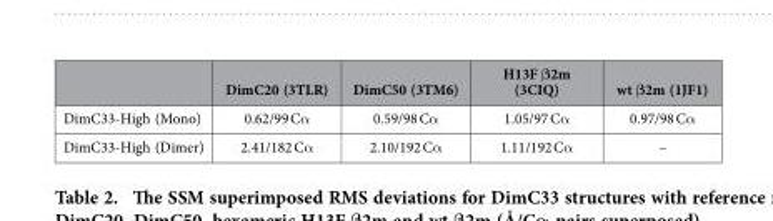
<table><thead><tr><td></td><td>DimC20 (3TLR)</td><td>DimC50 (3TM6)</td><td>H13F β2m (3CIQ)</td><td>wt β2m (1JF1)</td></tr></thead><tbody><tr><td>DimC33-High (Mono)</td><td>0.62/99 Cα</td><td>0.59/98 Cα</td><td>1.05/97 Cα</td><td>0.97/98 Cα</td></tr><tr><td>DimC33-High (Dimer)</td><td>2.41/182 Cα</td><td>2.10/192 Cα</td><td>1.11/192 Cα</td><td>–</td></tr></tbody></table>